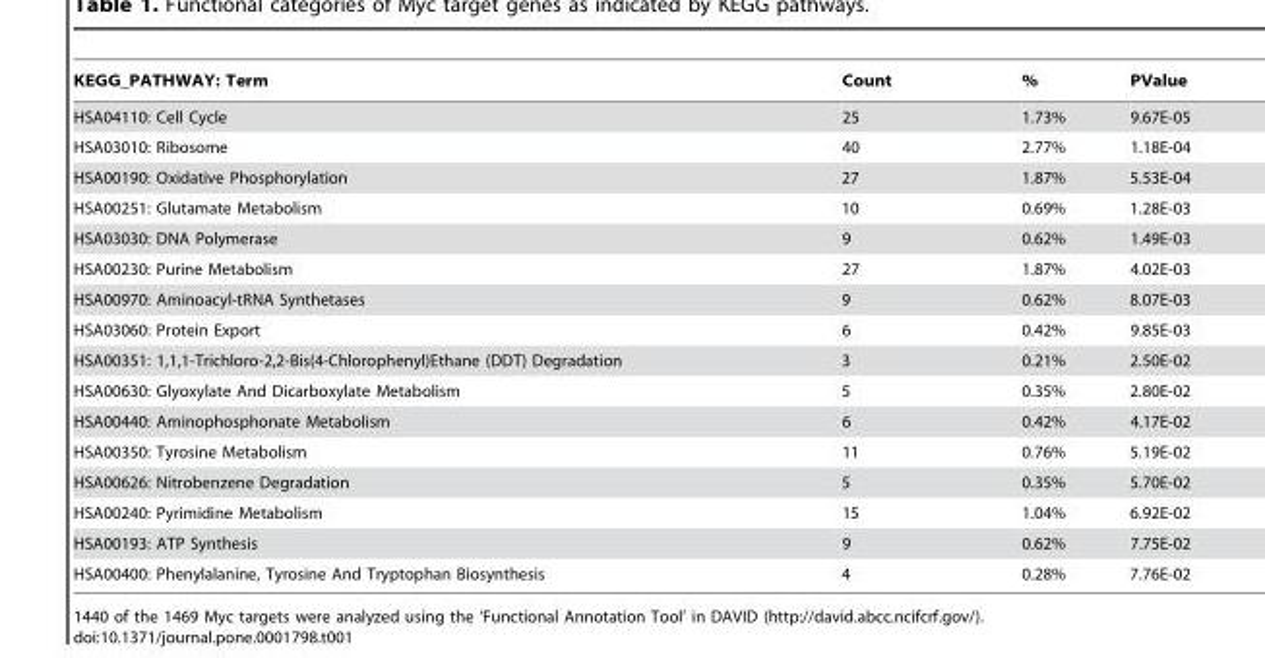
<table><thead><tr><td>KEGG_PATHWAY: Term</td><td>Count</td><td>%</td><td>PValue</td></tr></thead><tbody><tr><td>HSA04110: Cell Cycle</td><td>25</td><td>1.73%</td><td>9.67E-05</td></tr><tr><td>HSA03010: Ribosome</td><td>40</td><td>2.77%</td><td>1.18E-04</td></tr><tr><td>HSA00190: Oxidative Phosphorylation</td><td>27</td><td>1.87%</td><td>5.53E-04</td></tr><tr><td>HSA00251: Glutamate Metabolism</td><td>10</td><td>0.69%</td><td>1.28E-03</td></tr><tr><td>HSA03030: DNA Polymerase</td><td>9</td><td>0.62%</td><td>1.49E-03</td></tr><tr><td>HSA00230: Purine Metabolism</td><td>27</td><td>1.87%</td><td>4.02E-03</td></tr><tr><td>HSA00970: Aminoacyl-tRNA Synthetases</td><td>9</td><td>0.62%</td><td>8.07E-03</td></tr><tr><td>HSA03060: Protein Export</td><td>6</td><td>0.42%</td><td>9.85E-03</td></tr><tr><td>HSA00351: 1,1,1-Trichloro-2,2-Bis(4-Chlorophenyl)Ethane (DDT) Degradation</td><td>3</td><td>0.21%</td><td>2.50E-02</td></tr><tr><td>HSA00630: Glyoxylate And Dicarboxylate Metabolism</td><td>5</td><td>0.35%</td><td>2.80E-02</td></tr><tr><td>HSA00440: Aminophosphonate Metabolism</td><td>6</td><td>0.42%</td><td>4.17E-02</td></tr><tr><td>HSA00350: Tyrosine Metabolism</td><td>11</td><td>0.76%</td><td>5.19E-02</td></tr><tr><td>HSA00626: Nitrobenzene Degradation</td><td>5</td><td>0.35%</td><td>5.70E-02</td></tr><tr><td>HSA00240: Pyrimidine Metabolism</td><td>15</td><td>1.04%</td><td>6.92E-02</td></tr><tr><td>HSA00193: ATP Synthesis</td><td>9</td><td>0.62%</td><td>7.75E-02</td></tr><tr><td>HSA00400: Phenylalanine, Tyrosine And Tryptophan Biosynthesis</td><td>4</td><td>0.28%</td><td>7.76E-02</td></tr></tbody></table>